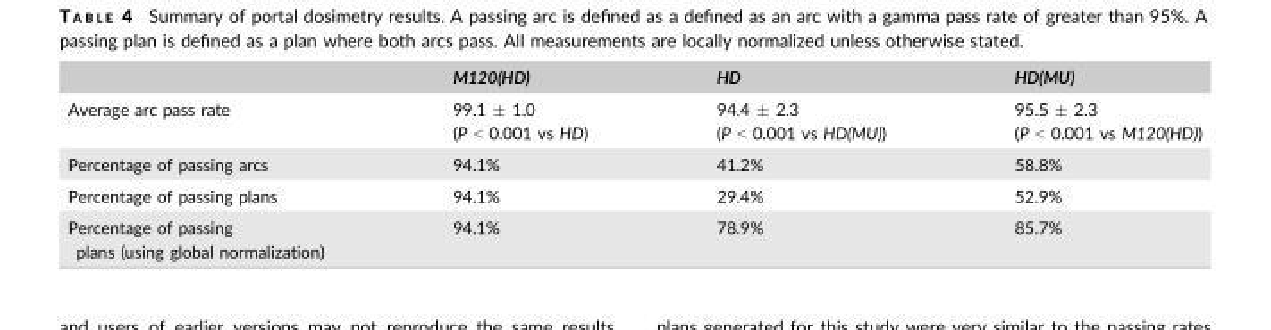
<table><thead><tr><td></td><td>M120(HD)</td><td>HD</td><td>HD(MU)</td></tr></thead><tbody><tr><td>Average arc pass rate</td><td>99.1 ± 1.0 (P &lt; 0.001 vs HD)</td><td>94.4 ± 2.3 (P &lt; 0.001 vs HD(MU))</td><td>95.5 ± 2.3 (P &lt; 0.001 vs M120(HD))</td></tr><tr><td>Percentage of passing arcs</td><td>94.1%</td><td>41.2%</td><td>58.8%</td></tr><tr><td>Percentage of passing plans</td><td>94.1%</td><td>29.4%</td><td>52.9%</td></tr><tr><td>Percentage of passing plans (using global normalization)</td><td>94.1%</td><td>78.9%</td><td>85.7%</td></tr></tbody></table>